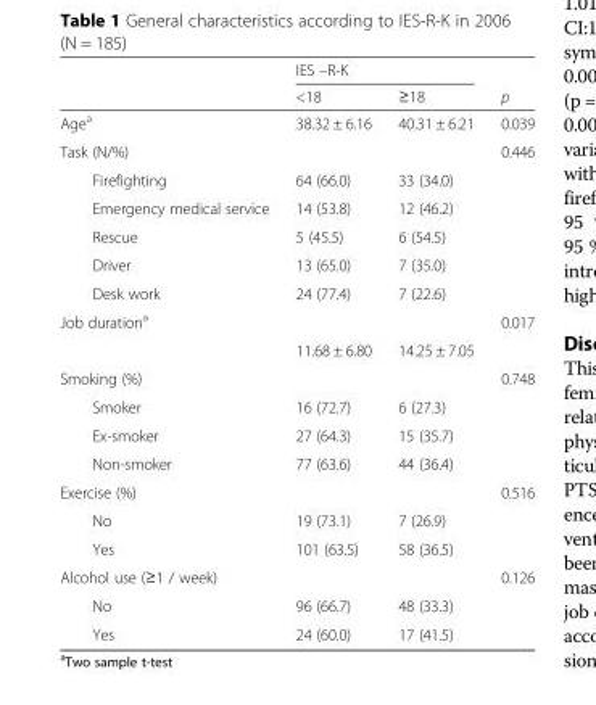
<table><thead><tr><td rowspan="2"></td><td colspan="2">IES –R-K</td><td rowspan="2">p</td></tr><tr><td>&lt;18</td><td>≥18</td></tr></thead><tbody><tr><td>Age<sup>a</sup></td><td>38.32 ± 6.16</td><td>40.31 ± 6.21</td><td>0.039</td></tr><tr><td>Task (N/%)</td><td></td><td></td><td>0.446</td></tr><tr><td>Firefighting</td><td>64 (66.0)</td><td>33 (34.0)</td><td></td></tr><tr><td>Emergency medical service</td><td>14 (53.8)</td><td>12 (46.2)</td><td></td></tr><tr><td>Rescue</td><td>5 (45.5)</td><td>6 (54.5)</td><td></td></tr><tr><td>Driver</td><td>13 (65.0)</td><td>7 (35.0)</td><td></td></tr><tr><td>Desk work</td><td>24 (77.4)</td><td>7 (22.6)</td><td></td></tr><tr><td rowspan="2">Job duration<sup>a</sup></td><td></td><td></td><td>0.017</td></tr><tr><td>11.68 ± 6.80</td><td>14.25 ± 7.05</td><td></td></tr><tr><td>Smoking (%)</td><td></td><td></td><td>0.748</td></tr><tr><td>Smoker</td><td>16 (72.7)</td><td>6 (27.3)</td><td></td></tr><tr><td>Ex-smoker</td><td>27 (64.3)</td><td>15 (35.7)</td><td></td></tr><tr><td>Non-smoker</td><td>77 (63.6)</td><td>44 (36.4)</td><td></td></tr><tr><td>Exercise (%)</td><td></td><td></td><td>0.516</td></tr><tr><td>No</td><td>19 (73.1)</td><td>7 (26.9)</td><td></td></tr><tr><td>Yes</td><td>101 (63.5)</td><td>58 (36.5)</td><td></td></tr><tr><td>Alcohol use (≥1 / week)</td><td></td><td></td><td>0.126</td></tr><tr><td>No</td><td>96 (66.7)</td><td>48 (33.3)</td><td></td></tr><tr><td>Yes</td><td>24 (60.0)</td><td>17 (41.5)</td><td></td></tr></tbody></table>